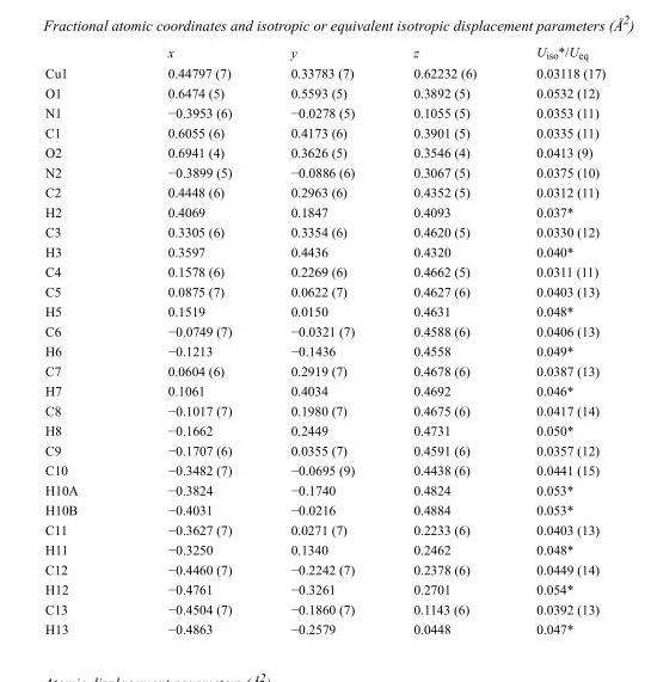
<table><thead><tr><td></td><td>x</td><td>y</td><td>z</td><td>U<sub>iso</sub>*/U<sub>eq</sub></td></tr></thead><tbody><tr><td>Cu1</td><td>0.44797 (7)</td><td>0.33783 (7)</td><td>0.62232 (6)</td><td>0.03118 (17)</td></tr><tr><td>O1</td><td>0.6474 (5)</td><td>0.5593 (5)</td><td>0.3892 (5)</td><td>0.0532 (12)</td></tr><tr><td>N1</td><td>−0.3953 (6)</td><td>−0.0278 (5)</td><td>0.1055 (5)</td><td>0.0353 (11)</td></tr><tr><td>C1</td><td>0.6055 (6)</td><td>0.4173 (6)</td><td>0.3901 (5)</td><td>0.0335 (11)</td></tr><tr><td>O2</td><td>0.6941 (4)</td><td>0.3626 (5)</td><td>0.3546 (4)</td><td>0.0413 (9)</td></tr><tr><td>N2</td><td>−0.3899 (5)</td><td>−0.0886 (6)</td><td>0.3067 (5)</td><td>0.0375 (10)</td></tr><tr><td>C2</td><td>0.4448 (6)</td><td>0.2963 (6)</td><td>0.4352 (5)</td><td>0.0312 (11)</td></tr><tr><td>H2</td><td>0.4069</td><td>0.1847</td><td>0.4093</td><td>0.037*</td></tr><tr><td>C3</td><td>0.3305 (6)</td><td>0.3354 (6)</td><td>0.4620 (5)</td><td>0.0330 (12)</td></tr><tr><td>H3</td><td>0.3597</td><td>0.4436</td><td>0.4320</td><td>0.040*</td></tr><tr><td>C4</td><td>0.1578 (6)</td><td>0.2269 (6)</td><td>0.4662 (5)</td><td>0.0311 (11)</td></tr><tr><td>C5</td><td>0.0875 (7)</td><td>0.0622 (7)</td><td>0.4627 (6)</td><td>0.0403 (13)</td></tr><tr><td>H5</td><td>0.1519</td><td>0.0150</td><td>0.4631</td><td>0.048*</td></tr><tr><td>C6</td><td>−0.0749 (7)</td><td>−0.0321 (7)</td><td>0.4588 (6)</td><td>0.0406 (13)</td></tr><tr><td>H6</td><td>−0.1213</td><td>−0.1436</td><td>0.4558</td><td>0.049*</td></tr><tr><td>C7</td><td>0.0604 (6)</td><td>0.2919 (7)</td><td>0.4678 (6)</td><td>0.0387 (13)</td></tr><tr><td>H7</td><td>0.1061</td><td>0.4034</td><td>0.4692</td><td>0.046*</td></tr><tr><td>C8</td><td>−0.1017 (7)</td><td>0.1980 (7)</td><td>0.4675 (6)</td><td>0.0417 (14)</td></tr><tr><td>H8</td><td>−0.1662</td><td>0.2449</td><td>0.4731</td><td>0.050*</td></tr><tr><td>C9</td><td>−0.1707 (6)</td><td>0.0355 (7)</td><td>0.4591 (6)</td><td>0.0357 (12)</td></tr><tr><td>C10</td><td>−0.3482 (7)</td><td>−0.0695 (9)</td><td>0.4438 (6)</td><td>0.0441 (15)</td></tr><tr><td>H10A</td><td>−0.3824</td><td>−0.1740</td><td>0.4824</td><td>0.053*</td></tr><tr><td>H10B</td><td>−0.4031</td><td>−0.0216</td><td>0.4884</td><td>0.053*</td></tr><tr><td>C11</td><td>−0.3627 (7)</td><td>0.0271 (7)</td><td>0.2233 (6)</td><td>0.0403 (13)</td></tr><tr><td>H11</td><td>−0.3250</td><td>0.1340</td><td>0.2462</td><td>0.048*</td></tr><tr><td>C12</td><td>−0.4460 (7)</td><td>−0.2242 (7)</td><td>0.2378 (6)</td><td>0.0449 (14)</td></tr><tr><td>H12</td><td>−0.4761</td><td>−0.3261</td><td>0.2701</td><td>0.054*</td></tr><tr><td>C13</td><td>−0.4504 (7)</td><td>−0.1860 (7)</td><td>0.1143 (6)</td><td>0.0392 (13)</td></tr><tr><td>H13</td><td>−0.4863</td><td>−0.2579</td><td>0.0448</td><td>0.047*</td></tr></tbody></table>